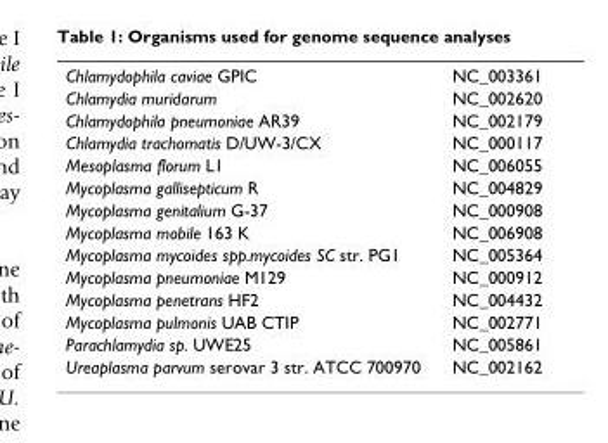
<table><tbody><tr><td>Chlamydophila caviae GPIC</td><td>NC_003361</td></tr><tr><td>Chlamydia muridarum</td><td>NC_002620</td></tr><tr><td>Chlamydophila pneumoniae AR39</td><td>NC_002179</td></tr><tr><td>Chlamydia trachomatis D/UW-3/CX</td><td>NC_000117</td></tr><tr><td>Mesoplasma florum L1</td><td>NC_006055</td></tr><tr><td>Mycoplasma gallisepticum R</td><td>NC_004829</td></tr><tr><td>Mycoplasma genitalium G-37</td><td>NC_000908</td></tr><tr><td>Mycoplasma mobile 163 K</td><td>NC_006908</td></tr><tr><td>Mycoplasma mycoides spp.mycoides SC str. PG1</td><td>NC_005364</td></tr><tr><td>Mycoplasma pneumoniae M129</td><td>NC_000912</td></tr><tr><td>Mycoplasma penetrans HF2</td><td>NC_004432</td></tr><tr><td>Mycoplasma pulmonis UAB CTIP</td><td>NC_002771</td></tr><tr><td>Parachlamydia sp. UWE25</td><td>NC_005861</td></tr><tr><td>Ureaplasma parvum serovar 3 str. ATCC 700970</td><td>NC_002162</td></tr></tbody></table>